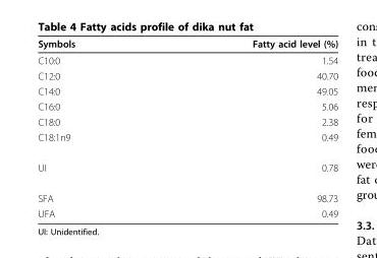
<table><thead><tr><td>Symbols</td><td>Fatty acid level (%)</td></tr></thead><tbody><tr><td>C10:0</td><td>1.54</td></tr><tr><td>C12:0</td><td>40.70</td></tr><tr><td>C14:0</td><td>49.05</td></tr><tr><td>C16:0</td><td>5.06</td></tr><tr><td>C18:0</td><td>2.38</td></tr><tr><td>C18:1n9</td><td>0.49</td></tr><tr><td>UI</td><td>0.78</td></tr><tr><td>SFA</td><td>98.73</td></tr><tr><td>UFA</td><td>0.49</td></tr></tbody></table>